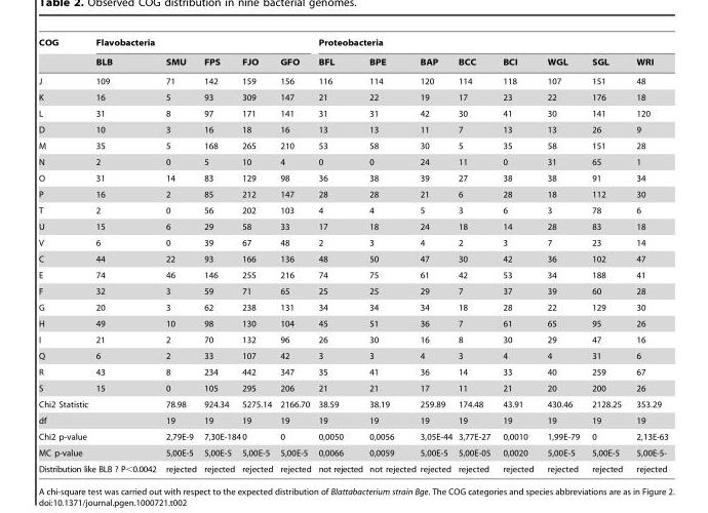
<table><thead><tr><td rowspan="2">COG</td><td colspan="5">Flavobacteria</td><td colspan="8">Proteobacteria</td></tr><tr><td>BLB</td><td>SMU</td><td>FPS</td><td>FJO</td><td>GFO</td><td>BFL</td><td>BPE</td><td>BAP</td><td>BCC</td><td>BCI</td><td>WGL</td><td>SGL</td><td>WRI</td></tr></thead><tbody><tr><td>J</td><td>109</td><td>71</td><td>142</td><td>159</td><td>156</td><td>116</td><td>114</td><td>120</td><td>114</td><td>118</td><td>107</td><td>151</td><td>48</td></tr><tr><td>K</td><td>16</td><td>5</td><td>93</td><td>309</td><td>147</td><td>21</td><td>22</td><td>19</td><td>17</td><td>23</td><td>22</td><td>176</td><td>18</td></tr><tr><td>L</td><td>31</td><td>8</td><td>97</td><td>171</td><td>141</td><td>31</td><td>31</td><td>42</td><td>30</td><td>41</td><td>30</td><td>141</td><td>120</td></tr><tr><td>D</td><td>10</td><td>3</td><td>16</td><td>18</td><td>16</td><td>13</td><td>13</td><td>11</td><td>7</td><td>13</td><td>13</td><td>26</td><td>9</td></tr><tr><td>M</td><td>35</td><td>5</td><td>168</td><td>265</td><td>210</td><td>53</td><td>58</td><td>30</td><td>5</td><td>35</td><td>58</td><td>151</td><td>28</td></tr><tr><td>N</td><td>2</td><td>0</td><td>5</td><td>10</td><td>4</td><td>0</td><td>0</td><td>24</td><td>11</td><td>0</td><td>31</td><td>65</td><td>1</td></tr><tr><td>O</td><td>31</td><td>14</td><td>83</td><td>129</td><td>98</td><td>36</td><td>38</td><td>39</td><td>27</td><td>38</td><td>38</td><td>91</td><td>34</td></tr><tr><td>P</td><td>16</td><td>2</td><td>85</td><td>212</td><td>147</td><td>28</td><td>28</td><td>21</td><td>6</td><td>28</td><td>18</td><td>112</td><td>30</td></tr><tr><td>T</td><td>2</td><td>0</td><td>56</td><td>202</td><td>103</td><td>4</td><td>4</td><td>5</td><td>3</td><td>6</td><td>3</td><td>78</td><td>6</td></tr><tr><td>U</td><td>15</td><td>6</td><td>29</td><td>58</td><td>33</td><td>17</td><td>18</td><td>24</td><td>18</td><td>14</td><td>28</td><td>83</td><td>18</td></tr><tr><td>V</td><td>6</td><td>0</td><td>39</td><td>67</td><td>48</td><td>2</td><td>3</td><td>4</td><td>2</td><td>3</td><td>7</td><td>23</td><td>14</td></tr><tr><td>C</td><td>44</td><td>22</td><td>93</td><td>166</td><td>136</td><td>48</td><td>50</td><td>47</td><td>30</td><td>42</td><td>36</td><td>102</td><td>47</td></tr><tr><td>E</td><td>74</td><td>46</td><td>146</td><td>255</td><td>216</td><td>74</td><td>75</td><td>61</td><td>42</td><td>53</td><td>34</td><td>188</td><td>41</td></tr><tr><td>F</td><td>32</td><td>3</td><td>59</td><td>71</td><td>65</td><td>25</td><td>25</td><td>29</td><td>7</td><td>37</td><td>39</td><td>60</td><td>28</td></tr><tr><td>G</td><td>20</td><td>3</td><td>62</td><td>238</td><td>131</td><td>34</td><td>34</td><td>34</td><td>18</td><td>28</td><td>22</td><td>129</td><td>30</td></tr><tr><td>H</td><td>49</td><td>10</td><td>98</td><td>130</td><td>104</td><td>45</td><td>51</td><td>36</td><td>7</td><td>61</td><td>65</td><td>95</td><td>26</td></tr><tr><td>I</td><td>21</td><td>2</td><td>70</td><td>132</td><td>96</td><td>26</td><td>30</td><td>16</td><td>8</td><td>30</td><td>29</td><td>47</td><td>16</td></tr><tr><td>Q</td><td>6</td><td>2</td><td>33</td><td>107</td><td>42</td><td>3</td><td>3</td><td>4</td><td>3</td><td>4</td><td>4</td><td>31</td><td>6</td></tr><tr><td>R</td><td>43</td><td>8</td><td>234</td><td>442</td><td>347</td><td>35</td><td>41</td><td>36</td><td>14</td><td>33</td><td>40</td><td>259</td><td>67</td></tr><tr><td>S</td><td>15</td><td>0</td><td>105</td><td>295</td><td>206</td><td>21</td><td>21</td><td>17</td><td>11</td><td>21</td><td>20</td><td>200</td><td>26</td></tr><tr><td colspan="2">Chi2 Statistic</td><td>78.98</td><td>924.34</td><td>5275.14</td><td>2166.70</td><td>38.59</td><td>38.19</td><td>259.89</td><td>174.48</td><td>43.91</td><td>430.46</td><td>2128.25</td><td>353.29</td></tr><tr><td colspan="2">df</td><td>19</td><td>19</td><td>19</td><td>19</td><td>19</td><td>19</td><td>19</td><td>19</td><td>19</td><td>19</td><td>19</td><td>19</td></tr><tr><td colspan="2">Chi2 p-value</td><td>2,79E-9</td><td>7,30E-184</td><td>0</td><td>0</td><td>0,0050</td><td>0,0056</td><td>3,05E-44</td><td>3,77E-27</td><td>0,0010</td><td>1,99E-79</td><td>0</td><td>2,13E-63</td></tr><tr><td colspan="2">MC p-value</td><td>5,00E-5</td><td>5,00E-5</td><td>5,00E-5</td><td>5,00E-5</td><td>0,0066</td><td>0,0059</td><td>5,00E-5</td><td>5,00E-05</td><td>0,0020</td><td>5,00E-5</td><td>5,00E-5</td><td>5,00E-5-</td></tr><tr><td colspan="2">Distribution like BLB ? P&lt;0.0042</td><td>rejected</td><td>rejected</td><td>rejected</td><td>rejected</td><td>not rejected</td><td>not rejected</td><td>rejected</td><td>rejected</td><td>rejected</td><td>rejected</td><td>rejected</td><td>rejected</td></tr></tbody></table>